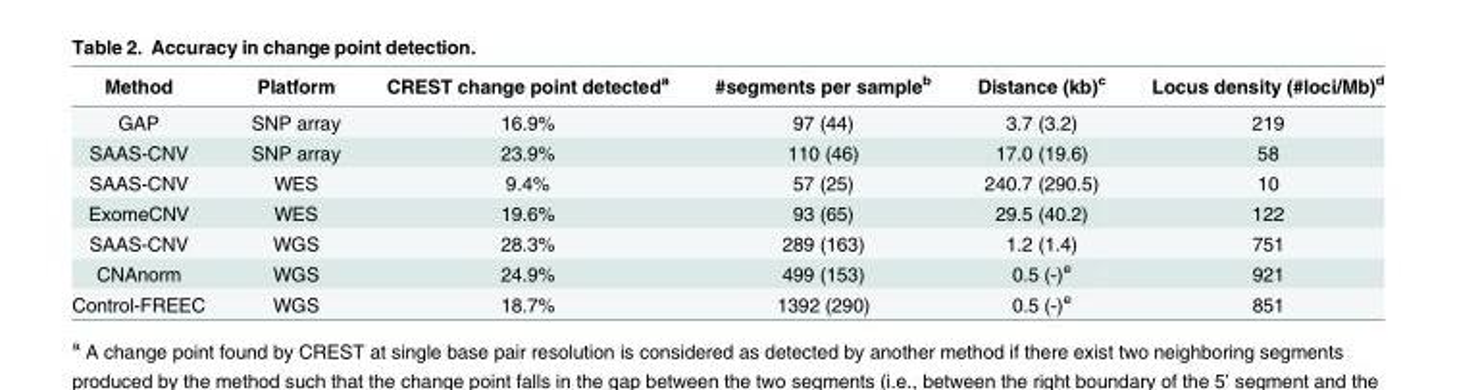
<table><thead><tr><td>Method</td><td>Platform</td><td>CREST change point detected<sup>a</sup></td><td>#segments per sample<sup>b</sup></td><td>Distance (kb)<sup>c</sup></td><td>Locus density (#loci/Mb)<sup>d</sup></td></tr></thead><tbody><tr><td>GAP</td><td>SNP array</td><td>16.9%</td><td>97 (44)</td><td>3.7 (3.2)</td><td>219</td></tr><tr><td>SAAS-CNV</td><td>SNP array</td><td>23.9%</td><td>110 (46)</td><td>17.0 (19.6)</td><td>58</td></tr><tr><td>SAAS-CNV</td><td>WES</td><td>9.4%</td><td>57 (25)</td><td>240.7 (290.5)</td><td>10</td></tr><tr><td>ExomeCNV</td><td>WES</td><td>19.6%</td><td>93 (65)</td><td>29.5 (40.2)</td><td>122</td></tr><tr><td>SAAS-CNV</td><td>WGS</td><td>28.3%</td><td>289 (163)</td><td>1.2 (1.4)</td><td>751</td></tr><tr><td>CNAnorm</td><td>WGS</td><td>24.9%</td><td>499 (153)</td><td>0.5 (-)<sup>e</sup></td><td>921</td></tr><tr><td>Control-FREEC</td><td>WGS</td><td>18.7%</td><td>1392 (290)</td><td>0.5 (-)<sup>e</sup></td><td>851</td></tr></tbody></table>